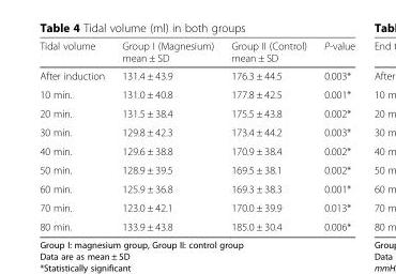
<table><thead><tr><td>Tidal volume</td><td>Group I (Magnesium) mean ± SD</td><td>Group II (Control) mean ± SD</td><td>P-value</td></tr></thead><tbody><tr><td>After induction</td><td>131.4 ± 43.9</td><td>176.3 ± 44.5</td><td>0.003*</td></tr><tr><td>10 min.</td><td>131.0 ± 40.8</td><td>177.8 ± 42.5</td><td>0.001*</td></tr><tr><td>20 min.</td><td>131.5 ± 38.4</td><td>175.5 ± 43.8</td><td>0.002*</td></tr><tr><td>30 min.</td><td>129.8 ± 42.3</td><td>173.4 ± 44.2</td><td>0.003*</td></tr><tr><td>40 min.</td><td>129.6 ± 38.8</td><td>170.9 ± 38.4</td><td>0.002*</td></tr><tr><td>50 min.</td><td>128.9 ± 39.5</td><td>169.5 ± 38.1</td><td>0.002*</td></tr><tr><td>60 min.</td><td>125.9 ± 36.8</td><td>169.3 ± 38.3</td><td>0.001*</td></tr><tr><td>70 min.</td><td>123.0 ± 42.1</td><td>170.0 ± 39.9</td><td>0.013*</td></tr><tr><td>80 min.</td><td>133.9 ± 43.8</td><td>185.0 ± 30.4</td><td>0.006*</td></tr></tbody></table>